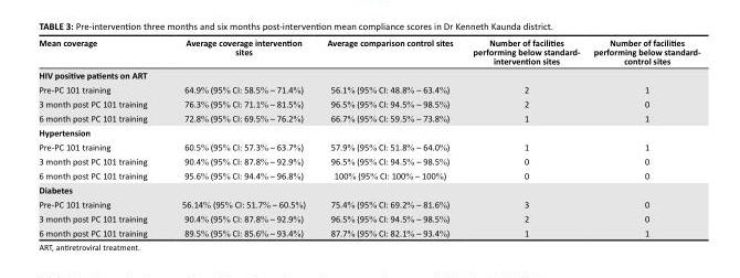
<table><thead><tr><td>Mean coverage</td><td>Average coverage intervention sites</td><td>Average comparison control sites</td><td>Number of facilities performing below standard- intervention sites</td><td>Number of facilities performing below standard- control sites</td></tr></thead><tbody><tr><td colspan="5">HIV positive patients on ART</td></tr><tr><td>Pre-PC 101 training</td><td>64.9% (95% CI: 58.5% – 71.4%)</td><td>56.1% (95% CI: 48.8% – 63.4%)</td><td>2</td><td>1</td></tr><tr><td>3 month post PC 101 training</td><td>76.3% (95% CI: 71.1% – 81.5%)</td><td>96.5% (95% CI: 94.5% – 98.5%)</td><td>2</td><td>0</td></tr><tr><td>6 month post PC 101 training</td><td>72.8% (95% CI: 69.5% – 76.2%)</td><td>66.7% (95% CI: 59.5% – 73.8%)</td><td>1</td><td>1</td></tr><tr><td colspan="5">Hypertension</td></tr><tr><td>Pre-PC 101 training</td><td>60.5% (95% CI: 57.3% – 63.7%)</td><td>57.9% (95% CI: 51.8% – 64.0%)</td><td>1</td><td>1</td></tr><tr><td>3 month post PC 101 training</td><td>90.4% (95% CI: 87.8% – 92.9%)</td><td>96.5% (95% CI: 94.5% – 98.5%)</td><td>0</td><td>0</td></tr><tr><td>6 month post PC 101 training</td><td>95.6% (95% CI: 94.4% – 96.8%)</td><td>100% (95% CI: 100% – 100%)</td><td>0</td><td>0</td></tr><tr><td colspan="5">Diabetes</td></tr><tr><td>Pre-PC 101 training</td><td>56.14% (95% CI: 51.7% – 60.5%)</td><td>75.4% (95% CI: 69.2% – 81.6%)</td><td>3</td><td>0</td></tr><tr><td>3 month post PC 101 training</td><td>90.4% (95% CI: 87.8% – 92.9%)</td><td>96.5% (95% CI: 94.5% – 98.5%)</td><td>2</td><td>0</td></tr><tr><td>6 month post PC 101 training</td><td>89.5% (95% CI: 85.6% – 93.4%)</td><td>87.7% (95% CI: 82.1% – 93.4%)</td><td>1</td><td>1</td></tr></tbody></table>